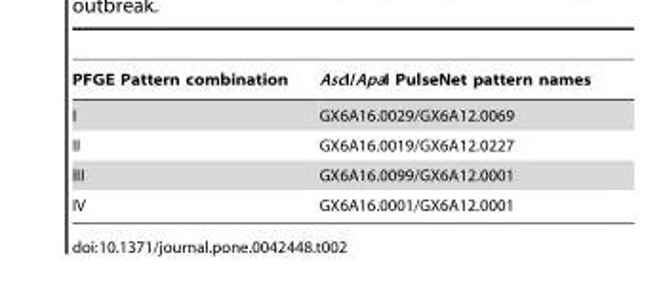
<table><thead><tr><td>PFGE Pattern combination</td><td>AscI/ApaI PulseNet pattern names</td></tr></thead><tbody><tr><td>I</td><td>GX6A16.0029/GX6A12.0069</td></tr><tr><td>II</td><td>GX6A16.0019/GX6A12.0227</td></tr><tr><td>III</td><td>GX6A16.0099/GX6A12.0001</td></tr><tr><td>IV</td><td>GX6A16.0001/GX6A12.0001</td></tr></tbody></table>